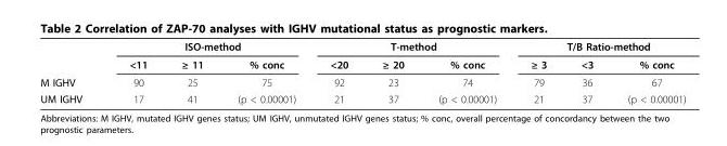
<table><thead><tr><td rowspan="2"></td><td colspan="3">ISO-method</td><td colspan="3">T-method</td><td colspan="3">T/B Ratio-method</td></tr><tr><td>&lt;11</td><td>≥ 11</td><td>% conc</td><td>&lt;20</td><td>≥ 20</td><td>% conc</td><td>≥ 3</td><td>&lt;3</td><td>% conc</td></tr></thead><tbody><tr><td>M IGHV</td><td>90</td><td>25</td><td>75</td><td>92</td><td>23</td><td>74</td><td>79</td><td>36</td><td>67</td></tr><tr><td>UM IGHV</td><td>17</td><td>41</td><td>(p &lt; 0.00001)</td><td>21</td><td>37</td><td>(p &lt; 0.00001)</td><td>21</td><td>37</td><td>(p &lt; 0.00001)</td></tr></tbody></table>